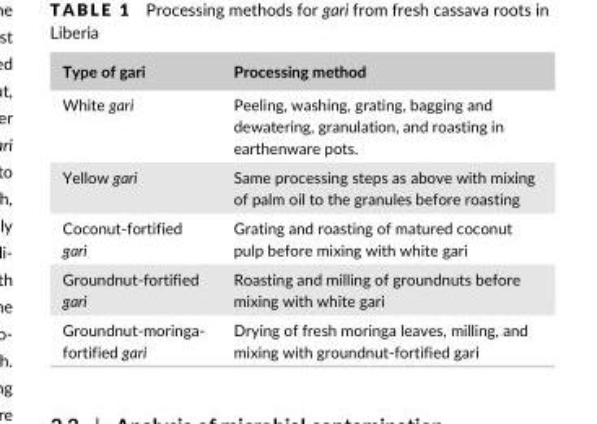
<table><thead><tr><td>Type of gari</td><td>Processing method</td></tr></thead><tbody><tr><td>White gari</td><td>Peeling, washing, grating, bagging and dewatering, granulation, and roasting in earthenware pots.</td></tr><tr><td>Yellow gari</td><td>Same processing steps as above with mixing of palm oil to the granules before roasting</td></tr><tr><td>Coconut- fortified gari</td><td>Grating and roasting of matured coconut pulp before mixing with white gari</td></tr><tr><td>Groundnut- fortified gari</td><td>Roasting and milling of groundnuts before mixing with white gari</td></tr><tr><td>Groundnut- moringa- fortified gari</td><td>Drying of fresh moringa leaves, milling, and mixing with groundnut- fortified gari</td></tr></tbody></table>